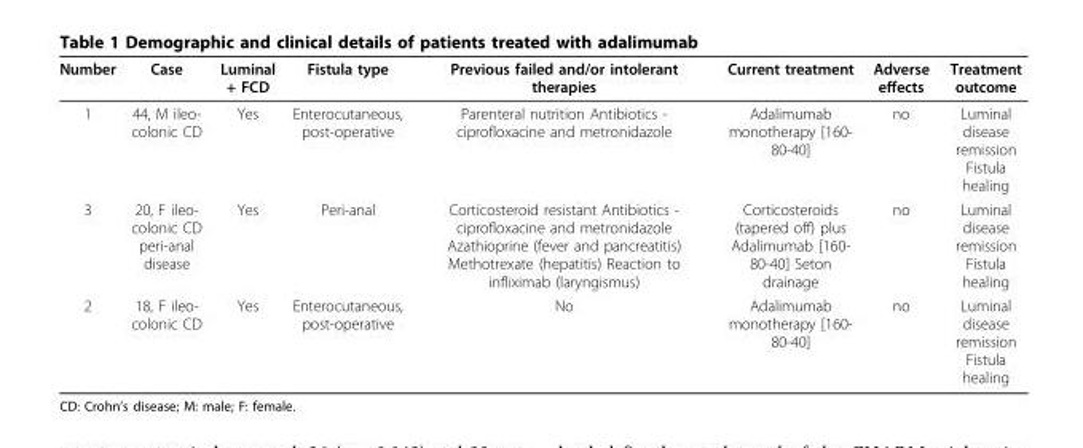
<table><thead><tr><td>Number</td><td>Case</td><td>Luminal + FCD</td><td>Fistula type</td><td>Previous failed and/or intolerant therapies</td><td>Current treatment</td><td>Adverse effects</td><td>Treatment outcome</td></tr></thead><tbody><tr><td>1</td><td>44, M ileo- colonic CD</td><td>Yes</td><td>Enterocutaneous, post-operative</td><td>Parenteral nutrition Antibiotics - ciprofloxacine and metronidazole</td><td>Adalimumab monotherapy [160- 80-40]</td><td>no</td><td>Luminal disease remission Fistula healing</td></tr><tr><td>3</td><td>20, F ileo- colonic CD peri-anal disease</td><td>Yes</td><td>Peri-anal</td><td>Corticosteroid resistant Antibiotics - ciprofloxacine and metronidazole Azathioprine (fever and pancreatitis) Methotrexate (hepatitis) Reaction to infliximab (laryngismus)</td><td>Corticosteroids (tapered off) plus Adalimumab [160- 80-40] Seton drainage</td><td>no</td><td>Luminal disease remission Fistula healing</td></tr><tr><td>2</td><td>18, F ileo- colonic CD</td><td>Yes</td><td>Enterocutaneous, post-operative</td><td>No</td><td>Adalimumab monotherapy [160- 80-40]</td><td>no</td><td>Luminal disease remission Fistula healing</td></tr></tbody></table>